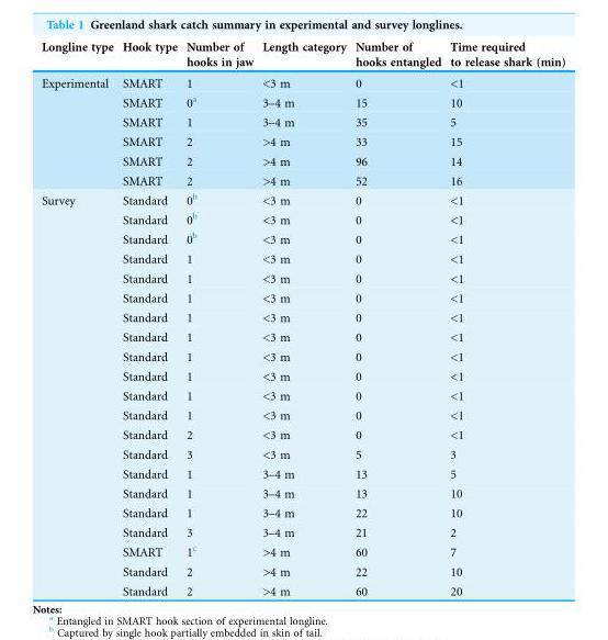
<table><thead><tr><td>Longline type</td><td>Hook type</td><td>Number of hooks in jaw</td><td>Length category</td><td>Number of hooks entangled</td><td>Time required to release shark (min)</td></tr></thead><tbody><tr><td rowspan="6">Experimental</td><td>SMART</td><td>1</td><td>&lt;3 m</td><td>0</td><td>&lt;1</td></tr><tr><td>SMART</td><td>0<sup>a</sup></td><td>3–4 m</td><td>15</td><td>10</td></tr><tr><td>SMART</td><td>1</td><td>3–4 m</td><td>35</td><td>5</td></tr><tr><td>SMART</td><td>2</td><td>&gt;4 m</td><td>33</td><td>15</td></tr><tr><td>SMART</td><td>2</td><td>&gt;4 m</td><td>96</td><td>14</td></tr><tr><td>SMART</td><td>2</td><td>&gt;4 m</td><td>52</td><td>16</td></tr><tr><td rowspan="21">Survey</td><td>Standard</td><td>0<sup>b</sup></td><td>&lt;3 m</td><td>0</td><td>&lt;1</td></tr><tr><td>Standard</td><td>0<sup>b</sup></td><td>&lt;3 m</td><td>0</td><td>&lt;1</td></tr><tr><td>Standard</td><td>0<sup>b</sup></td><td>&lt;3 m</td><td>0</td><td>&lt;1</td></tr><tr><td>Standard</td><td>1</td><td>&lt;3 m</td><td>0</td><td>&lt;1</td></tr><tr><td>Standard</td><td>1</td><td>&lt;3 m</td><td>0</td><td>&lt;1</td></tr><tr><td>Standard</td><td>1</td><td>&lt;3 m</td><td>0</td><td>&lt;1</td></tr><tr><td>Standard</td><td>1</td><td>&lt;3 m</td><td>0</td><td>&lt;1</td></tr><tr><td>Standard</td><td>1</td><td>&lt;3 m</td><td>0</td><td>&lt;1</td></tr><tr><td>Standard</td><td>1</td><td>&lt;3 m</td><td>0</td><td>&lt;1</td></tr><tr><td>Standard</td><td>1</td><td>&lt;3 m</td><td>0</td><td>&lt;1</td></tr><tr><td>Standard</td><td>1</td><td>&lt;3 m</td><td>0</td><td>&lt;1</td></tr><tr><td>Standard</td><td>1</td><td>&lt;3 m</td><td>0</td><td>&lt;1</td></tr><tr><td>Standard</td><td>2</td><td>&lt;3 m</td><td>0</td><td>&lt;1</td></tr><tr><td>Standard</td><td>3</td><td>&lt;3 m</td><td>5</td><td>3</td></tr><tr><td>Standard</td><td>1</td><td>3–4 m</td><td>13</td><td>5</td></tr><tr><td>Standard</td><td>1</td><td>3–4 m</td><td>13</td><td>10</td></tr><tr><td>Standard</td><td>1</td><td>3–4 m</td><td>22</td><td>10</td></tr><tr><td>Standard</td><td>3</td><td>3–4 m</td><td>21</td><td>2</td></tr><tr><td>SMART</td><td>1<sup>c</sup></td><td>&gt;4 m</td><td>60</td><td>7</td></tr><tr><td>Standard</td><td>2</td><td>&gt;4 m</td><td>22</td><td>10</td></tr><tr><td>Standard</td><td>2</td><td>&gt;4 m</td><td>60</td><td>20</td></tr></tbody></table>